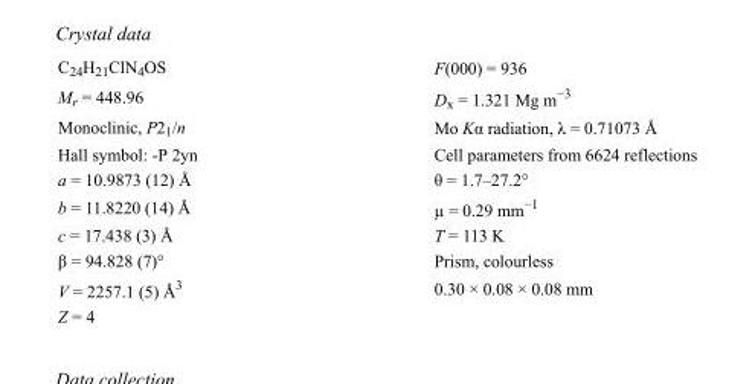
<table><tbody><tr><td>C<sub>24</sub>H<sub>21</sub>ClN<sub>4</sub>OS</td><td>F(000) = 936</td></tr><tr><td>M<sub>r</sub> = 448.96</td><td>D<sub>x</sub> = 1.321 Mg m<sup>−3</sup></td></tr><tr><td>Monoclinic, P2<sub>1</sub>/n</td><td>Mo Kα radiation, λ = 0.71073 Å</td></tr><tr><td>Hall symbol: -P 2yn</td><td>Cell parameters from 6624 reflections</td></tr><tr><td>a = 10.9873 (12) Å</td><td>θ = 1.7–27.2°</td></tr><tr><td>b = 11.8220 (14) Å</td><td>µ = 0.29 mm<sup>−1</sup></td></tr><tr><td>c = 17.438 (3) Å</td><td>T = 113 K</td></tr><tr><td>β = 94.828 (7)°</td><td>Prism, colourless</td></tr><tr><td>V = 2257.1 (5) Å<sup>3</sup></td><td>0.30 × 0.08 × 0.08 mm</td></tr><tr><td>Z = 4</td><td></td></tr></tbody></table>